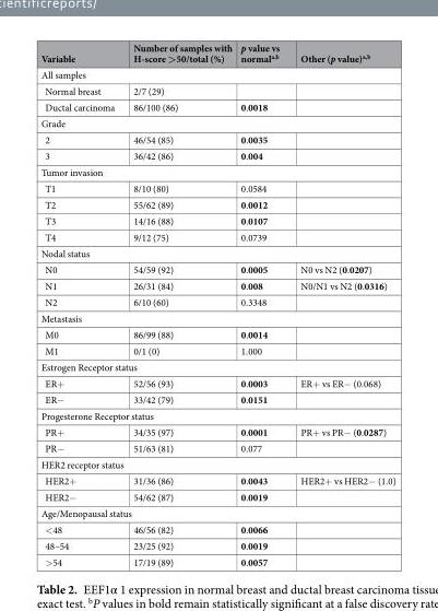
<table><thead><tr><td>Variable</td><td>Number of samples with H-score &gt;50/total (%)</td><td>p value vs normal<sup>a,b</sup></td><td>Other (p value)<sup>a,b</sup></td></tr></thead><tbody><tr><td colspan="4">All samples</td></tr><tr><td>Normal breast</td><td>2/7 (29)</td><td></td><td></td></tr><tr><td>Ductal carcinoma</td><td>86/100 (86)</td><td>0.0018</td><td></td></tr><tr><td colspan="4">Grade</td></tr><tr><td>2</td><td>46/54 (85)</td><td>0.0035</td><td></td></tr><tr><td>3</td><td>36/42 (86)</td><td>0.004</td><td></td></tr><tr><td colspan="4">Tumor invasion</td></tr><tr><td>T1</td><td>8/10 (80)</td><td>0.0584</td><td></td></tr><tr><td>T2</td><td>55/62 (89)</td><td>0.0012</td><td></td></tr><tr><td>T3</td><td>14/16 (88)</td><td>0.0107</td><td></td></tr><tr><td>T4</td><td>9/12 (75)</td><td>0.0739</td><td></td></tr><tr><td colspan="4">Nodal status</td></tr><tr><td>N0</td><td>54/59 (92)</td><td>0.0005</td><td>N0 vs N2 (0.0207)</td></tr><tr><td>N1</td><td>26/31 (84)</td><td>0.008</td><td>N0/N1 vs N2 (0.0316)</td></tr><tr><td>N2</td><td>6/10 (60)</td><td>0.3348</td><td></td></tr><tr><td colspan="4">Metastasis</td></tr><tr><td>M0</td><td>86/99 (88)</td><td>0.0014</td><td></td></tr><tr><td>M1</td><td>0/1 (0)</td><td>1.000</td><td></td></tr><tr><td colspan="4">Estrogen Receptor status</td></tr><tr><td>ER+</td><td>52/56 (93)</td><td>0.0003</td><td>ER+ vs ER− (0.068)</td></tr><tr><td>ER−</td><td>33/42 (79)</td><td>0.0151</td><td></td></tr><tr><td colspan="4">Progesterone Receptor status</td></tr><tr><td>PR+</td><td>34/35 (97)</td><td>0.0001</td><td>PR+ vs PR− (0.0287)</td></tr><tr><td>PR−</td><td>51/63 (81)</td><td>0.077</td><td></td></tr><tr><td colspan="4">HER2 receptor status</td></tr><tr><td>HER2+</td><td>31/36 (86)</td><td>0.0043</td><td>HER2+ vs HER2− (1.0)</td></tr><tr><td>HER2−</td><td>54/62 (87)</td><td>0.0019</td><td></td></tr><tr><td colspan="4">Age/Menopausal status</td></tr><tr><td>&lt;48</td><td>46/56 (82)</td><td>0.0066</td><td></td></tr><tr><td>48–54</td><td>23/25 (92)</td><td>0.0019</td><td></td></tr><tr><td>&gt;54</td><td>17/19 (89)</td><td>0.0057</td><td></td></tr></tbody></table>